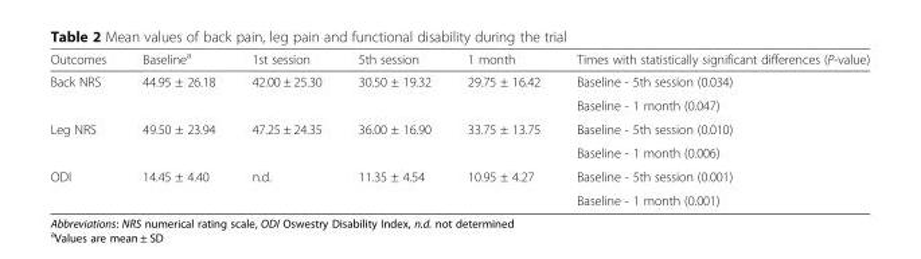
<table><thead><tr><td>Outcomes</td><td>Baseline<sup>a</sup></td><td>1st session</td><td>5th session</td><td>1 month</td><td>Times with statistically significant differences (P-value)</td></tr></thead><tbody><tr><td rowspan="2">Back NRS</td><td rowspan="2">44.95 ± 26.18</td><td rowspan="2">42.00 ± 25.30</td><td rowspan="2">30.50 ± 19.32</td><td rowspan="2">29.75 ± 16.42</td><td>Baseline - 5th session (0.034)</td></tr><tr><td>Baseline - 1 month (0.047)</td></tr><tr><td rowspan="2">Leg NRS</td><td rowspan="2">49.50 ± 23.94</td><td rowspan="2">47.25 ± 24.35</td><td rowspan="2">36.00 ± 16.90</td><td rowspan="2">33.75 ± 13.75</td><td>Baseline - 5th session (0.010)</td></tr><tr><td>Baseline - 1 month (0.006)</td></tr><tr><td rowspan="2">ODI</td><td rowspan="2">14.45 ± 4.40</td><td rowspan="2">n.d.</td><td rowspan="2">11.35 ± 4.54</td><td rowspan="2">10.95 ± 4.27</td><td>Baseline - 5th session (0.001)</td></tr><tr><td>Baseline - 1 month (0.001)</td></tr></tbody></table>